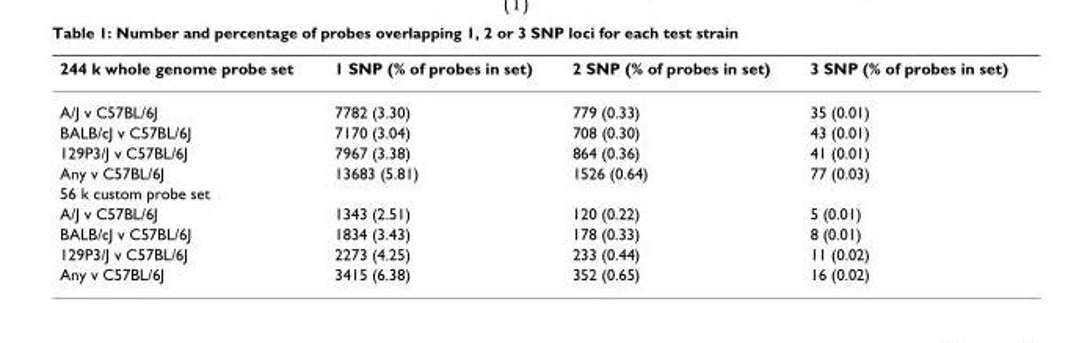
<table><thead><tr><td>244 k whole genome probe set</td><td>1 SNP (% of probes in set)</td><td>2 SNP (% of probes in set)</td><td>3 SNP (% of probes in set)</td></tr></thead><tbody><tr><td>A/J v C57BL/6J</td><td>7782 (3.30)</td><td>779 (0.33)</td><td>35 (0.01)</td></tr><tr><td>BALB/cJ v C57BL/6J</td><td>7170 (3.04)</td><td>708 (0.30)</td><td>43 (0.01)</td></tr><tr><td>129P3/J v C57BL/6J</td><td>7967 (3.38)</td><td>864 (0.36)</td><td>41 (0.01)</td></tr><tr><td>Any v C57BL/6J</td><td>13683 (5.81)</td><td>1526 (0.64)</td><td>77 (0.03)</td></tr><tr><td colspan="4">56 k custom probe set</td></tr><tr><td>A/J v C57BL/6J</td><td>1343 (2.51)</td><td>120 (0.22)</td><td>5 (0.01)</td></tr><tr><td>BALB/cJ v C57BL/6J</td><td>1834 (3.43)</td><td>178 (0.33)</td><td>8 (0.01)</td></tr><tr><td>129P3/J v C57BL/6J</td><td>2273 (4.25)</td><td>233 (0.44)</td><td>11 (0.02)</td></tr><tr><td>Any v C57BL/6J</td><td>3415 (6.38)</td><td>352 (0.65)</td><td>16 (0.02)</td></tr></tbody></table>